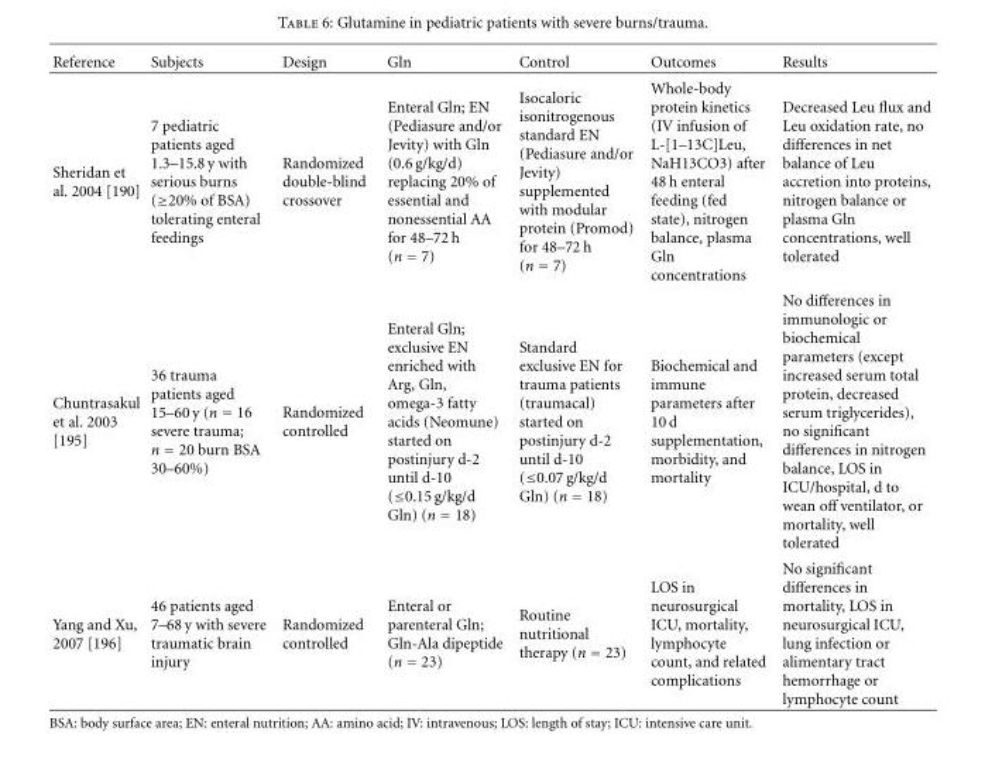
<table><thead><tr><td>Reference</td><td>Subjects</td><td>Design</td><td>Gln</td><td>Control</td><td>Outcomes</td><td>Results</td></tr></thead><tbody><tr><td>Sheridan et al. 2004 [190]</td><td>7 pediatric patients aged 1.3–15.8 y with serious burns (≥20% of BSA) tolerating enteral feedings</td><td>Randomized double-blind crossover</td><td>Enteral Gln; EN (Pediasure and/or Jevity) with Gln (0.6 g/kg/d) replacing 20% of essential and nonessential AA for 48–72 h (n = 7)</td><td>Isocaloric isonitrogenous standard EN (Pediasure and/or Jevity) supplemented with modular protein (Promod) for 48–72 h (n = 7)</td><td>Whole-body protein kinetics (IV infusion of L-[1–13C]Leu, NaH13CO3) after 48 h enteral feeding (fed state), nitrogen balance, plasma Gln concentrations</td><td>Decreased Leu flux and Leu oxidation rate, no differences in net balance of Leu accretion into proteins, nitrogen balance or plasma Gln concentrations, well tolerated</td></tr><tr><td>Chuntrasakul et al. 2003 [195]</td><td>36 trauma patients aged 15–60 y (n = 16 severe trauma; n = 20 burn BSA 30–60%)</td><td>Randomized controlled</td><td>Enteral Gln; exclusive EN enriched with Arg, Gln, omega-3 fatty acids (Neomune) started on postinjury d-2 until d-10 (≤0.15 g/kg/d Gln) (n = 18)</td><td>Standard exclusive EN for trauma patients (traumacal) started on postinjury d-2 until d-10 (≤0.07 g/kg/d Gln) (n = 18)</td><td>Biochemical and immune parameters after 10 d supplementation, morbidity, and mortality</td><td>No differences in immunologic or biochemical parameters (except increased serum total protein, decreased serum triglycerides), no significant differences in nitrogen balance, LOS in ICU/hospital, d to wean off ventilator, or mortality, well tolerated</td></tr><tr><td>Yang and Xu, 2007 [196]</td><td>46 patients aged 7–68 y with severe traumatic brain injury</td><td>Randomized controlled</td><td>Enteral or parenteral Gln; Gln-Ala dipeptide (n = 23)</td><td>Routine nutritional therapy (n = 23)</td><td>LOS in neurosurgical ICU, mortality, lymphocyte count, and related complications</td><td>No significant differences in mortality, LOS in neurosurgical ICU, lung infection or alimentary tract hemorrhage or lymphocyte count</td></tr></tbody></table>